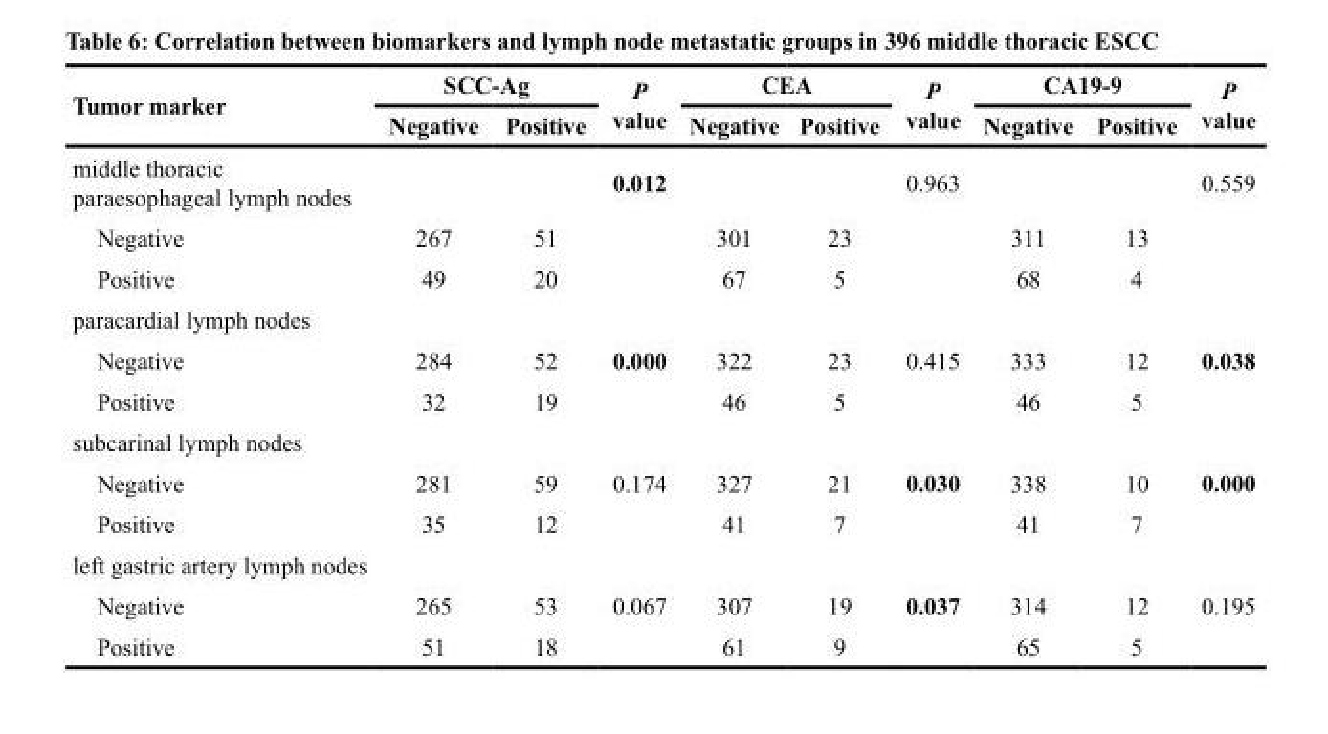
<table><thead><tr><td rowspan="2">Tumor marker</td><td colspan="2">SCC-Ag</td><td rowspan="2">P value</td><td colspan="2">CEA</td><td rowspan="2">P value</td><td colspan="2">CA19-9</td><td rowspan="2">P value</td></tr><tr><td>Negative</td><td>Positive</td><td>Negative</td><td>Positive</td><td>Negative</td><td>Positive</td></tr></thead><tbody><tr><td>middle thoracic paraesophageal lymph nodes</td><td></td><td></td><td>0.012</td><td></td><td></td><td>0.963</td><td></td><td></td><td>0.559</td></tr><tr><td>Negative</td><td>267</td><td>51</td><td></td><td>301</td><td>23</td><td></td><td>311</td><td>13</td><td></td></tr><tr><td>Positive</td><td>49</td><td>20</td><td></td><td>67</td><td>5</td><td></td><td>68</td><td>4</td><td></td></tr><tr><td colspan="10">paracardial lymph nodes</td></tr><tr><td>Negative</td><td>284</td><td>52</td><td>0.000</td><td>322</td><td>23</td><td>0.415</td><td>333</td><td>12</td><td>0.038</td></tr><tr><td>Positive</td><td>32</td><td>19</td><td></td><td>46</td><td>5</td><td></td><td>46</td><td>5</td><td></td></tr><tr><td colspan="10">subcarinal lymph nodes</td></tr><tr><td>Negative</td><td>281</td><td>59</td><td>0.174</td><td>327</td><td>21</td><td>0.030</td><td>338</td><td>10</td><td>0.000</td></tr><tr><td>Positive</td><td>35</td><td>12</td><td></td><td>41</td><td>7</td><td></td><td>41</td><td>7</td><td></td></tr><tr><td colspan="10">left gastric artery lymph nodes</td></tr><tr><td>Negative</td><td>265</td><td>53</td><td>0.067</td><td>307</td><td>19</td><td>0.037</td><td>314</td><td>12</td><td>0.195</td></tr><tr><td>Positive</td><td>51</td><td>18</td><td></td><td>61</td><td>9</td><td></td><td>65</td><td>5</td><td></td></tr></tbody></table>